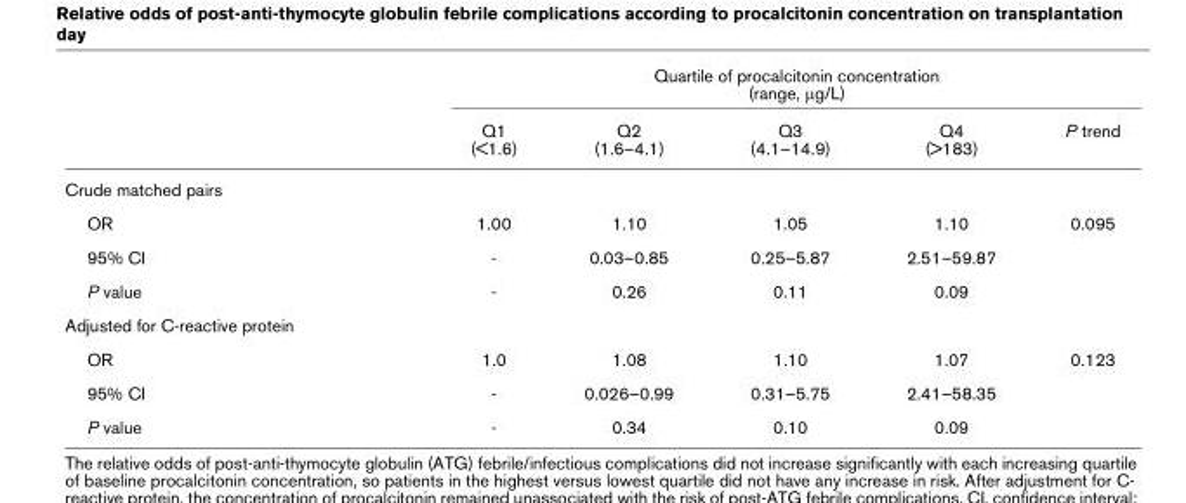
<table><thead><tr><td rowspan="2"></td><td colspan="5">Quartile of procalcitonin concentration (range, μg/L)</td></tr><tr><td>Q1 (&lt;1.6)</td><td>Q2 (1.6–4.1)</td><td>Q3 (4.1–14.9)</td><td>Q4 (&gt;183)</td><td>P trend</td></tr></thead><tbody><tr><td colspan="6">Crude matched pairs</td></tr><tr><td>OR</td><td>1.00</td><td>1.10</td><td>1.05</td><td>1.10</td><td>0.095</td></tr><tr><td>95% CI</td><td>-</td><td>0.03–0.85</td><td>0.25–5.87</td><td>2.51–59.87</td><td></td></tr><tr><td>P value</td><td>-</td><td>0.26</td><td>0.11</td><td>0.09</td><td></td></tr><tr><td colspan="6">Adjusted for C-reactive protein</td></tr><tr><td>OR</td><td>1.0</td><td>1.08</td><td>1.10</td><td>1.07</td><td>0.123</td></tr><tr><td>95% CI</td><td>-</td><td>0.026–0.99</td><td>0.31–5.75</td><td>2.41–58.35</td><td></td></tr><tr><td>P value</td><td>-</td><td>0.34</td><td>0.10</td><td>0.09</td><td></td></tr></tbody></table>